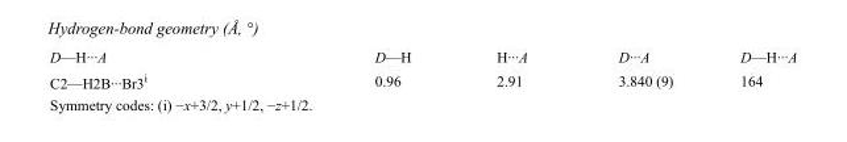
<table><tbody><tr><td>D—H···A</td><td>D—H</td><td>H···A</td><td>D···A</td><td>D—H···A</td></tr><tr><td>C2—H2B···Br3<sup>i</sup></td><td>0.96</td><td>2.91</td><td>3.840 (9)</td><td>164</td></tr></tbody></table>